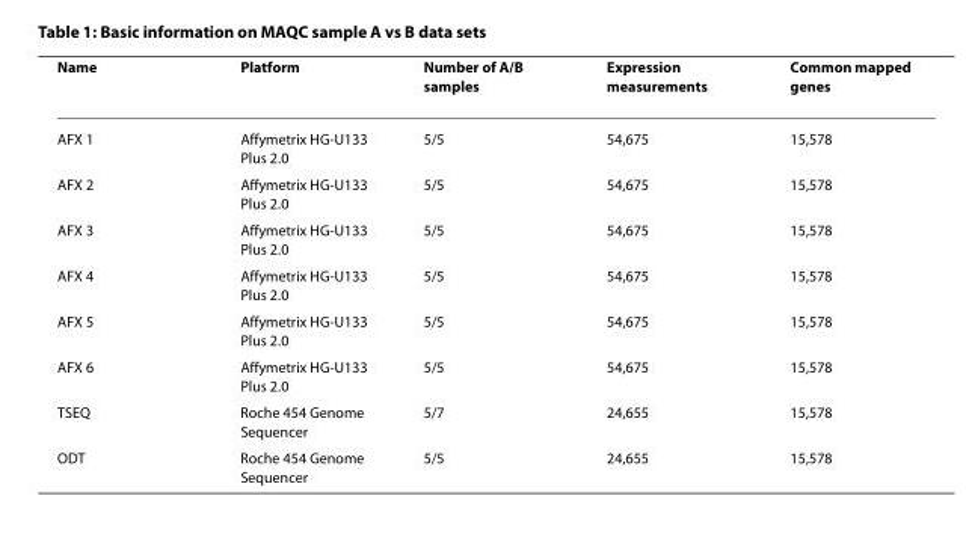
<table><thead><tr><td>Name</td><td>Platform</td><td>Number of A/B samples</td><td>Expression measurements</td><td>Common mapped genes</td></tr></thead><tbody><tr><td>AFX 1</td><td>Affymetrix HG-U133 Plus 2.0</td><td>5/5</td><td>54,675</td><td>15,578</td></tr><tr><td>AFX 2</td><td>Affymetrix HG-U133 Plus 2.0</td><td>5/5</td><td>54,675</td><td>15,578</td></tr><tr><td>AFX 3</td><td>Affymetrix HG-U133 Plus 2.0</td><td>5/5</td><td>54,675</td><td>15,578</td></tr><tr><td>AFX 4</td><td>Affymetrix HG-U133 Plus 2.0</td><td>5/5</td><td>54,675</td><td>15,578</td></tr><tr><td>AFX 5</td><td>Affymetrix HG-U133 Plus 2.0</td><td>5/5</td><td>54,675</td><td>15,578</td></tr><tr><td>AFX 6</td><td>Affymetrix HG-U133 Plus 2.0</td><td>5/5</td><td>54,675</td><td>15,578</td></tr><tr><td>TSEQ</td><td>Roche 454 Genome Sequencer</td><td>5/7</td><td>24,655</td><td>15,578</td></tr><tr><td>ODT</td><td>Roche 454 Genome Sequencer</td><td>5/5</td><td>24,655</td><td>15,578</td></tr></tbody></table>